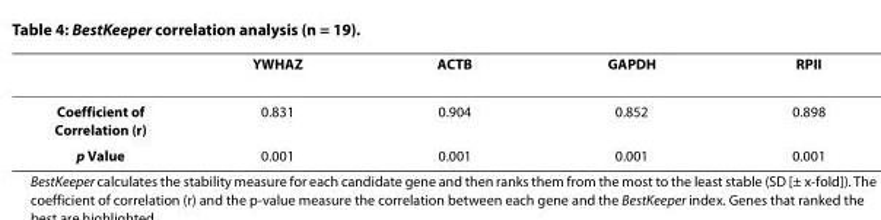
<table><thead><tr><td></td><td>YWHAZ</td><td>ACTB</td><td>GAPDH</td><td>RPII</td></tr></thead><tbody><tr><td>Coefficient of Correlation (r)</td><td>0.831</td><td>0.904</td><td>0.852</td><td>0.898</td></tr><tr><td>p Value</td><td>0.001</td><td>0.001</td><td>0.001</td><td>0.001</td></tr></tbody></table>